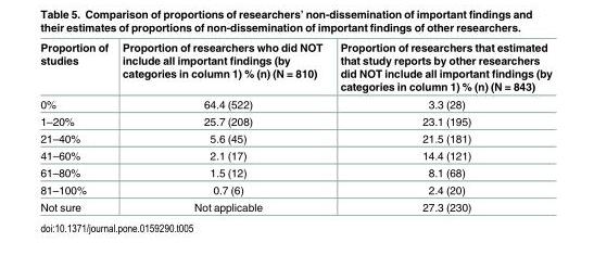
<table><thead><tr><td>Proportion of studies</td><td>Proportion of researchers who did NOT include all important findings (by categories in column 1) % (n) (N = 810)</td><td>Proportion of researchers that estimated that study reports by other researchers did NOT include all important findings (by categories in column 1) % (n) (N = 843)</td></tr></thead><tbody><tr><td>0%</td><td>64.4 (522)</td><td>3.3 (28)</td></tr><tr><td>1–20%</td><td>25.7 (208)</td><td>23.1 (195)</td></tr><tr><td>21–40%</td><td>5.6 (45)</td><td>21.5 (181)</td></tr><tr><td>41–60%</td><td>2.1 (17)</td><td>14.4 (121)</td></tr><tr><td>61–80%</td><td>1.5 (12)</td><td>8.1 (68)</td></tr><tr><td>81–100%</td><td>0.7 (6)</td><td>2.4 (20)</td></tr><tr><td>Not sure</td><td>Not applicable</td><td>27.3 (230)</td></tr></tbody></table>